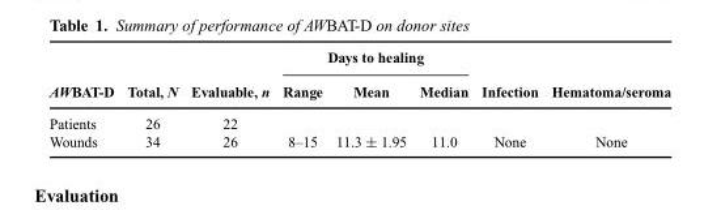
<table><thead><tr><td rowspan="2">AWBAT-D</td><td rowspan="2">Total, N</td><td rowspan="2">Evaluable, n</td><td colspan="3">Days to healing</td><td rowspan="2">Infection</td><td rowspan="2">Hematoma/seroma</td></tr><tr><td>Range</td><td>Mean</td><td>Median</td></tr></thead><tbody><tr><td>Patients</td><td>26</td><td>22</td><td></td><td></td><td></td><td></td><td></td></tr><tr><td>Wounds</td><td>34</td><td>26</td><td>8–15</td><td>11.3 ± 1.95</td><td>11.0</td><td>None</td><td>None</td></tr></tbody></table>